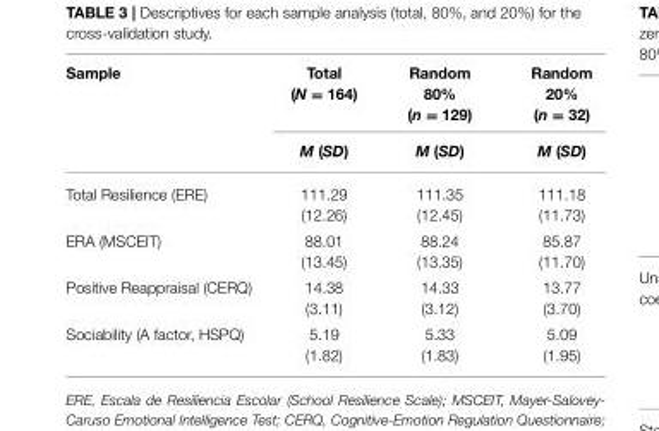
<table><thead><tr><td rowspan="2">Sample</td><td rowspan="2">Total (N = 164) M (SD)</td><td rowspan="2">Random 80% (n = 129) M (SD)</td><td rowspan="2">Random 20% (n = 32) M (SD)</td></tr><tr></tr></thead><tbody><tr><td>Total Resilience (ERE)</td><td>111.29 (12.26)</td><td>111.35 (12.45)</td><td>111.18 (11.73)</td></tr><tr><td>ERA (MSCEIT)</td><td>88.01 (13.45)</td><td>88.24 (13.35)</td><td>85.87 (11.70)</td></tr><tr><td>Positive Reappraisal (CERQ)</td><td>14.38 (3.11)</td><td>14.33 (3.12)</td><td>13.77 (3.70)</td></tr><tr><td>Sociability (A factor, HSPQ)</td><td>5.19 (1.82)</td><td>5.33 (1.83)</td><td>5.09 (1.95)</td></tr></tbody></table>